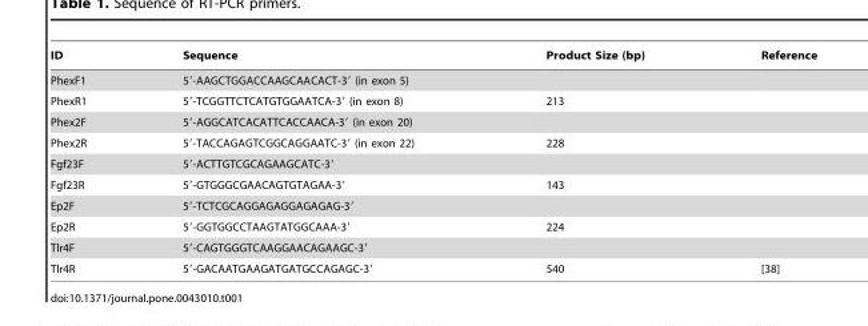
<table><thead><tr><td>ID</td><td>Sequence</td><td>Product Size (bp)</td><td>Reference</td></tr></thead><tbody><tr><td>PhexF1</td><td>5′-AAGCTGGACCAAGCAACACT-3′ (in exon 5)</td><td></td><td></td></tr><tr><td>PhexR1</td><td>5′-TCGGTTCTCATGTGGAATCA-3′ (in exon 8)</td><td>213</td><td></td></tr><tr><td>Phex2F</td><td>5′-AGGCATCACATTCACCAACA-3′ (in exon 20)</td><td></td><td></td></tr><tr><td>Phex2R</td><td>5′-TACCAGAGTCGGCAGGAATC-3′ (in exon 22)</td><td>228</td><td></td></tr><tr><td>Fgf23F</td><td>5′-ACTTGTCGCAGAAGCATC-3′</td><td></td><td></td></tr><tr><td>Fgf23R</td><td>5′-GTGGGCGAACAGTGTAGAA-3′</td><td>143</td><td></td></tr><tr><td>Ep2F</td><td>5′-TCTCGCAGGAGAGGAGAGAG-3′</td><td></td><td></td></tr><tr><td>Ep2R</td><td>5′-GGTGGCCTAAGTATGGCAAA-3′</td><td>224</td><td></td></tr><tr><td>Tlr4F</td><td>5′-CAGTGGGTCAAGGAACAGAAGC-3′</td><td></td><td></td></tr><tr><td>Tlr4R</td><td>5′-GACAATGAAGATGATGCCAGAGC-3′</td><td>540</td><td>[38]</td></tr></tbody></table>